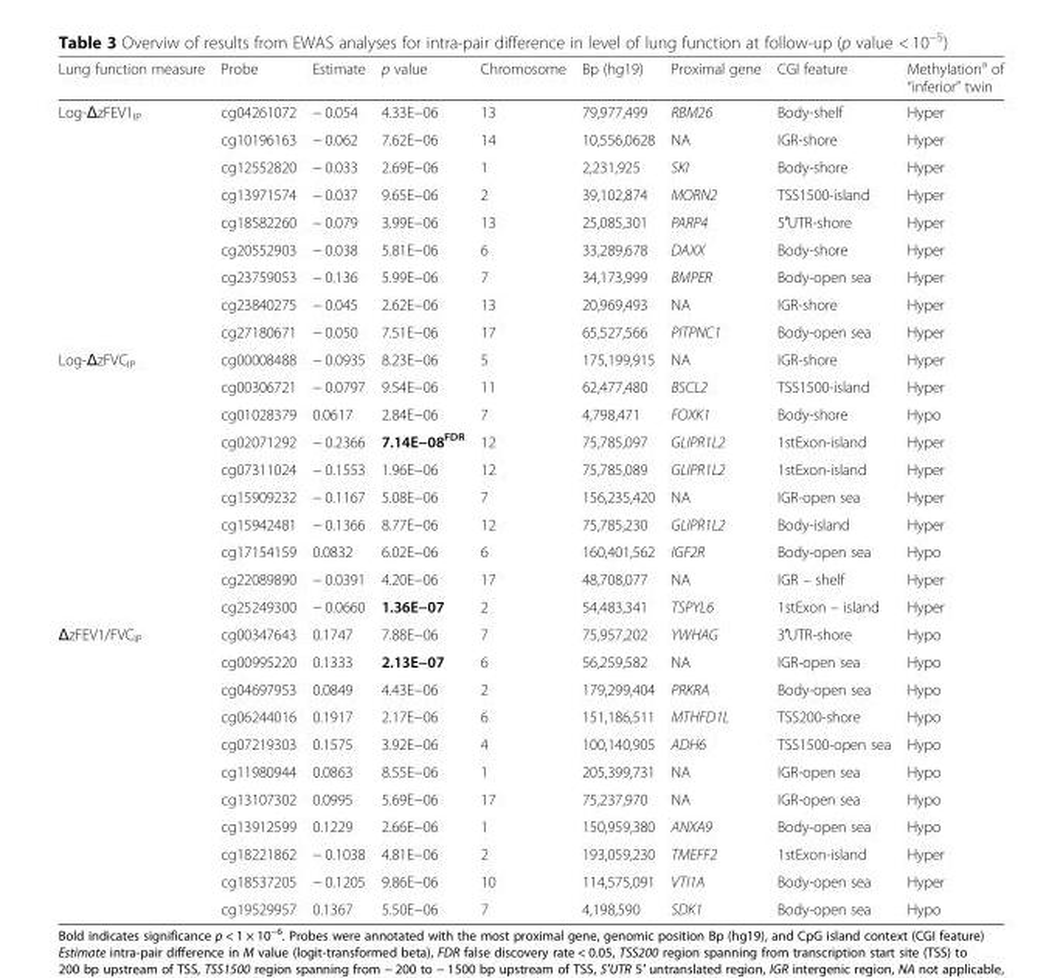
<table><thead><tr><td>Lung function measure</td><td>Probe</td><td>Estimate</td><td>p value</td><td>Chromosome</td><td>Bp (hg19)</td><td>Proximal gene</td><td>CGI feature</td><td>Methylation<sup>a</sup> of “inferior” twin</td></tr></thead><tbody><tr><td rowspan="9">Log-ΔzFEV1<sub>IP</sub></td><td>cg04261072</td><td>− 0.054</td><td>4.33E−06</td><td>13</td><td>79,977,499</td><td>RBM26</td><td>Body-shelf</td><td>Hyper</td></tr><tr><td>cg10196163</td><td>− 0.062</td><td>7.62E−06</td><td>14</td><td>10,556,0628</td><td>NA</td><td>IGR-shore</td><td>Hyper</td></tr><tr><td>cg12552820</td><td>− 0.033</td><td>2.69E−06</td><td>1</td><td>2,231,925</td><td>SKI</td><td>Body-shore</td><td>Hyper</td></tr><tr><td>cg13971574</td><td>− 0.037</td><td>9.65E−06</td><td>2</td><td>39,102,874</td><td>MORN2</td><td>TSS1500-island</td><td>Hyper</td></tr><tr><td>cg18582260</td><td>− 0.079</td><td>3.99E−06</td><td>13</td><td>25,085,301</td><td>PARP4</td><td>5′UTR-shore</td><td>Hyper</td></tr><tr><td>cg20552903</td><td>− 0.038</td><td>5.81E−06</td><td>6</td><td>33,289,678</td><td>DAXX</td><td>Body-shore</td><td>Hyper</td></tr><tr><td>cg23759053</td><td>− 0.136</td><td>5.99E−06</td><td>7</td><td>34,173,999</td><td>BMPER</td><td>Body-open sea</td><td>Hyper</td></tr><tr><td>cg23840275</td><td>− 0.045</td><td>2.62E−06</td><td>13</td><td>20,969,493</td><td>NA</td><td>IGR-shore</td><td>Hyper</td></tr><tr><td>cg27180671</td><td>− 0.050</td><td>7.51E−06</td><td>17</td><td>65,527,566</td><td>PITPNC1</td><td>Body-open sea</td><td>Hyper</td></tr><tr><td rowspan="10">Log-ΔzFVC<sub>IP</sub></td><td>cg00008488</td><td>− 0.0935</td><td>8.23E−06</td><td>5</td><td>175,199,915</td><td>NA</td><td>IGR-shore</td><td>Hyper</td></tr><tr><td>cg00306721</td><td>− 0.0797</td><td>9.54E−06</td><td>11</td><td>62,477,480</td><td>BSCL2</td><td>TSS1500-island</td><td>Hyper</td></tr><tr><td>cg01028379</td><td>0.0617</td><td>2.84E−06</td><td>7</td><td>4,798,471</td><td>FOXK1</td><td>Body-shore</td><td>Hypo</td></tr><tr><td>cg02071292</td><td>− 0.2366</td><td>7.14E−08<sup>FDR</sup></td><td>12</td><td>75,785,097</td><td>GLIPR1L2</td><td>1stExon-island</td><td>Hyper</td></tr><tr><td>cg07311024</td><td>− 0.1553</td><td>1.96E−06</td><td>12</td><td>75,785,089</td><td>GLIPR1L2</td><td>1stExon-island</td><td>Hyper</td></tr><tr><td>cg15909232</td><td>− 0.1167</td><td>5.08E−06</td><td>7</td><td>156,235,420</td><td>NA</td><td>IGR-open sea</td><td>Hyper</td></tr><tr><td>cg15942481</td><td>− 0.1366</td><td>8.77E−06</td><td>12</td><td>75,785,230</td><td>GLIPR1L2</td><td>Body-island</td><td>Hyper</td></tr><tr><td>cg17154159</td><td>0.0832</td><td>6.02E−06</td><td>6</td><td>160,401,562</td><td>IGF2R</td><td>Body-open sea</td><td>Hypo</td></tr><tr><td>cg22089890</td><td>− 0.0391</td><td>4.20E−06</td><td>17</td><td>48,708,077</td><td>NA</td><td>IGR – shelf</td><td>Hyper</td></tr><tr><td>cg25249300</td><td>− 0.0660</td><td>1.36E−07</td><td>2</td><td>54,483,341</td><td>TSPYL6</td><td>1stExon – island</td><td>Hyper</td></tr><tr><td rowspan="11">ΔzFEV1/FVC<sub>IP</sub></td><td>cg00347643</td><td>0.1747</td><td>7.88E−06</td><td>7</td><td>75,957,202</td><td>YWHAG</td><td>3′UTR-shore</td><td>Hypo</td></tr><tr><td>cg00995220</td><td>0.1333</td><td>2.13E−07</td><td>6</td><td>56,259,582</td><td>NA</td><td>IGR-open sea</td><td>Hypo</td></tr><tr><td>cg04697953</td><td>0.0849</td><td>4.43E−06</td><td>2</td><td>179,299,404</td><td>PRKRA</td><td>Body-open sea</td><td>Hypo</td></tr><tr><td>cg06244016</td><td>0.1917</td><td>2.17E−06</td><td>6</td><td>151,186,511</td><td>MTHFD1L</td><td>TSS200-shore</td><td>Hypo</td></tr><tr><td>cg07219303</td><td>0.1575</td><td>3.92E−06</td><td>4</td><td>100,140,905</td><td>ADH6</td><td>TSS1500-open sea</td><td>Hypo</td></tr><tr><td>cg11980944</td><td>0.0863</td><td>8.55E−06</td><td>1</td><td>205,399,731</td><td>NA</td><td>IGR-open sea</td><td>Hypo</td></tr><tr><td>cg13107302</td><td>0.0995</td><td>5.69E−06</td><td>17</td><td>75,237,970</td><td>NA</td><td>IGR-open sea</td><td>Hypo</td></tr><tr><td>cg13912599</td><td>0.1229</td><td>2.66E−06</td><td>1</td><td>150,959,380</td><td>ANXA9</td><td>Body-open sea</td><td>Hypo</td></tr><tr><td>cg18221862</td><td>− 0.1038</td><td>4.81E−06</td><td>2</td><td>193,059,230</td><td>TMEFF2</td><td>1stExon-island</td><td>Hyper</td></tr><tr><td>cg18537205</td><td>− 0.1205</td><td>9.86E−06</td><td>10</td><td>114,575,091</td><td>VTI1A</td><td>Body-open sea</td><td>Hyper</td></tr><tr><td>cg19529957</td><td>0.1367</td><td>5.50E−06</td><td>7</td><td>4,198,590</td><td>SDK1</td><td>Body-open sea</td><td>Hypo</td></tr></tbody></table>